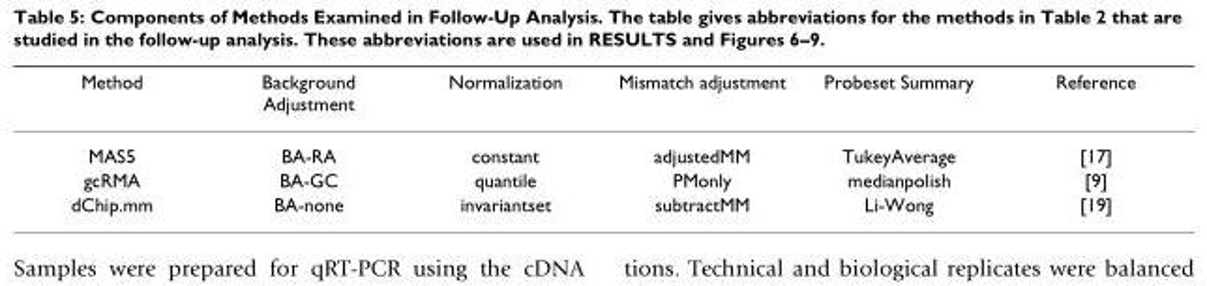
<table><thead><tr><td>Method</td><td>Background Adjustment</td><td>Normalization</td><td>Mismatch adjustment</td><td>Probeset Summary</td><td>Reference</td></tr></thead><tbody><tr><td>MAS5</td><td>BA-RA</td><td>constant</td><td>adjustedMM</td><td>TukeyAverage</td><td>[17]</td></tr><tr><td>gcRMA</td><td>BA-GC</td><td>quantile</td><td>PMonly</td><td>medianpolish</td><td>[9]</td></tr><tr><td>dChip.mm</td><td>BA-none</td><td>invariantset</td><td>subtractMM</td><td>Li-Wong</td><td>[19]</td></tr></tbody></table>